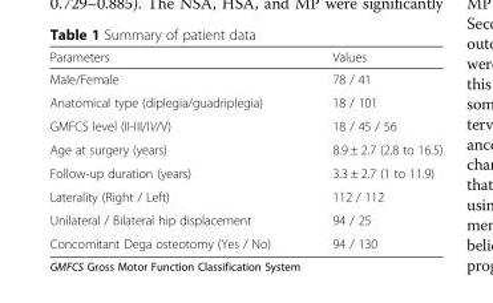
<table><thead><tr><td>Parameters</td><td>Values</td></tr></thead><tbody><tr><td>Male/Female</td><td>78 / 41</td></tr><tr><td>Anatomical type (diplegia/guadriplegia)</td><td>18 / 101</td></tr><tr><td>GMFCS level (II-III/IV/V)</td><td>18 / 45 / 56</td></tr><tr><td>Age at surgery (years)</td><td>8.9 ± 2.7 (2.8 to 16.5)</td></tr><tr><td>Follow-up duration (years)</td><td>3.3 ± 2.7 (1 to 11.9)</td></tr><tr><td>Laterality (Right / Left)</td><td>112 / 112</td></tr><tr><td>Unilateral / Bilateral hip displacement</td><td>94 / 25</td></tr><tr><td>Concomitant Dega osteotomy (Yes / No)</td><td>94 / 130</td></tr></tbody></table>